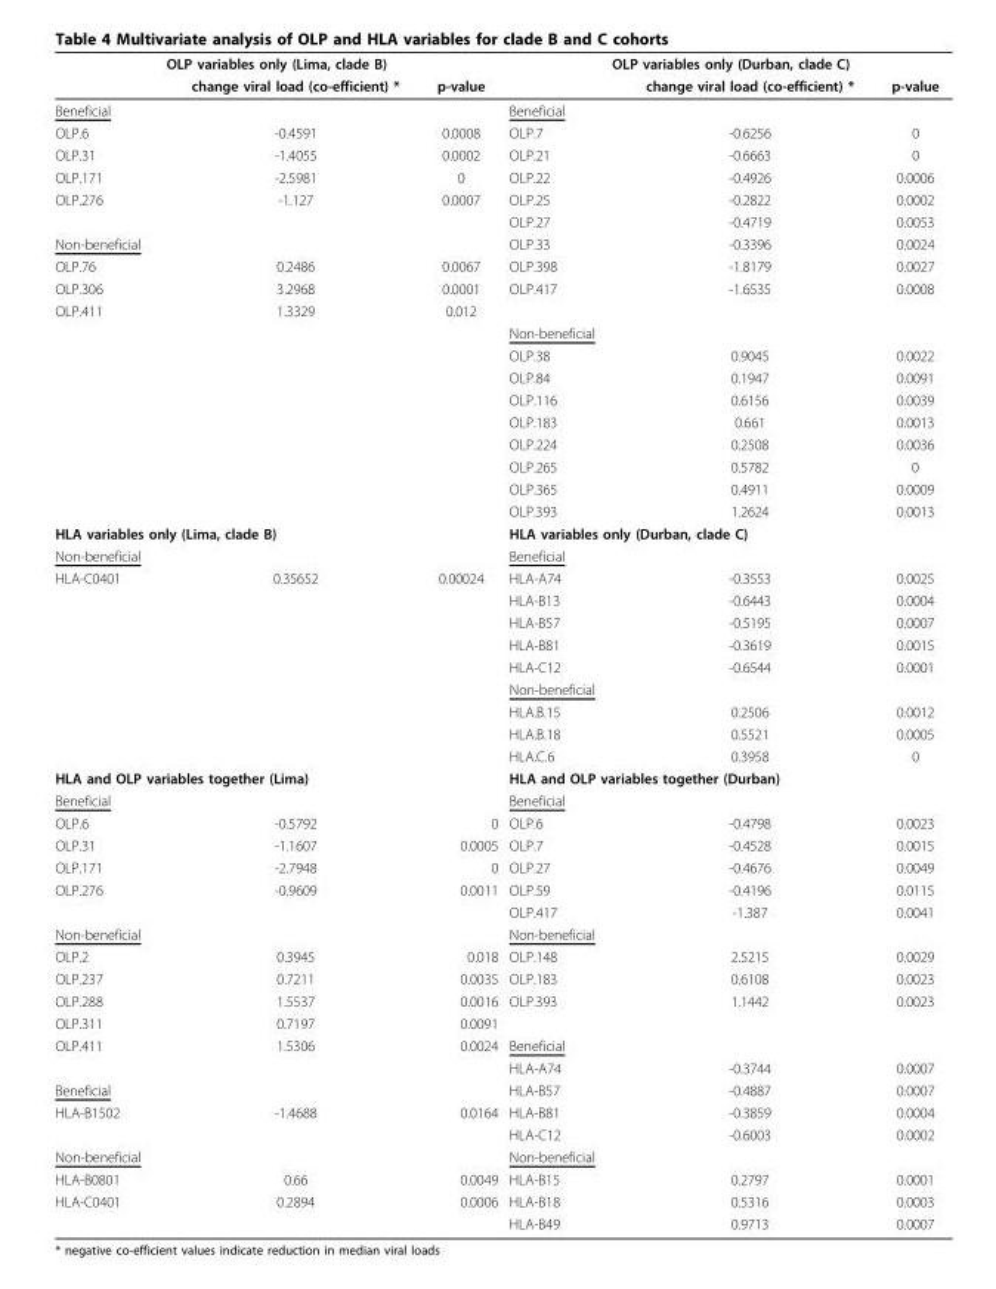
<table><thead><tr><td colspan="3">OLP variables only (Lima, clade B)</td><td colspan="3">OLP variables only (Durban, clade C)</td></tr><tr><td></td><td>change viral load (co-efficient) *</td><td>p-value</td><td></td><td>change viral load (co-efficient) *</td><td>p-value</td></tr></thead><tbody><tr><td>Beneficial</td><td></td><td></td><td>Beneficial</td><td></td><td></td></tr><tr><td>OLP.6</td><td>-0.4591</td><td>0.0008</td><td>OLP.7</td><td>-0.6256</td><td>0</td></tr><tr><td>OLP.31</td><td>-1.4055</td><td>0.0002</td><td>OLP.21</td><td>-0.6663</td><td>0</td></tr><tr><td>OLP.171</td><td>-2.5981</td><td>0</td><td>OLP.22</td><td>-0.4926</td><td>0.0006</td></tr><tr><td rowspan="2">OLP.276</td><td>-1.127</td><td>0.0007</td><td>OLP.25</td><td>-0.2822</td><td>0.0002</td></tr><tr><td></td><td></td><td>OLP.27</td><td>-0.4719</td><td>0.0053</td></tr><tr><td>Non-beneficial</td><td></td><td></td><td>OLP.33</td><td>-0.3396</td><td>0.0024</td></tr><tr><td>OLP.76</td><td>0.2486</td><td>0.0067</td><td>OLP.398</td><td>-1.8179</td><td>0.0027</td></tr><tr><td>OLP.306</td><td>3.2968</td><td>0.0001</td><td>OLP.417</td><td>-1.6535</td><td>0.0008</td></tr><tr><td rowspan="10">OLP.411</td><td>1.3329</td><td>0.012</td><td></td><td></td><td></td></tr><tr><td></td><td></td><td>Non-beneficial</td><td></td><td></td></tr><tr><td></td><td></td><td>OLP.38</td><td>0.9045</td><td>0.0022</td></tr><tr><td></td><td></td><td>OLP.84</td><td>0.1947</td><td>0.0091</td></tr><tr><td></td><td></td><td>OLP.116</td><td>0.6156</td><td>0.0039</td></tr><tr><td></td><td></td><td>OLP.183</td><td>0.661</td><td>0.0013</td></tr><tr><td></td><td></td><td>OLP.224</td><td>0.2508</td><td>0.0036</td></tr><tr><td></td><td></td><td>OLP.265</td><td>0.5782</td><td>0</td></tr><tr><td></td><td></td><td>OLP.365</td><td>0.4911</td><td>0.0009</td></tr><tr><td></td><td></td><td>OLP.393</td><td>1.2624</td><td>0.0013</td></tr><tr><td colspan="3">HLA variables only (Lima, clade B)</td><td colspan="3">HLA variables only (Durban, clade C)</td></tr><tr><td colspan="2">Non-beneficial</td><td></td><td>Beneficial</td><td></td><td></td></tr><tr><td rowspan="9">HLA-C0401</td><td>0.35652</td><td>0.00024</td><td>HLA-A74</td><td>-0.3553</td><td>0.0025</td></tr><tr><td></td><td></td><td>HLA-B13</td><td>-0.6443</td><td>0.0004</td></tr><tr><td></td><td></td><td>HLA-B57</td><td>-0.5195</td><td>0.0007</td></tr><tr><td></td><td></td><td>HLA-B81</td><td>-0.3619</td><td>0.0015</td></tr><tr><td></td><td></td><td>HLA-C12</td><td>-0.6544</td><td>0.0001</td></tr><tr><td></td><td></td><td colspan="2">Non-beneficial</td><td></td></tr><tr><td></td><td></td><td>HLA.B.15</td><td>0.2506</td><td>0.0012</td></tr><tr><td></td><td></td><td>HLA.B.18</td><td>0.5521</td><td>0.0005</td></tr><tr><td></td><td></td><td>HLA.C.6</td><td>0.3958</td><td>0</td></tr><tr><td colspan="3">HLA and OLP variables together (Lima)</td><td colspan="3">HLA and OLP variables together (Durban)</td></tr><tr><td>Beneficial</td><td></td><td></td><td>Beneficial</td><td></td><td></td></tr><tr><td>OLP.6</td><td>-0.5792</td><td>0</td><td>OLP.6</td><td>-0.4798</td><td>0.0023</td></tr><tr><td>OLP.31</td><td>-1.1607</td><td>0.0005</td><td>OLP.7</td><td>-0.4528</td><td>0.0015</td></tr><tr><td>OLP.171</td><td>-2.7948</td><td>0</td><td>OLP.27</td><td>-0.4676</td><td>0.0049</td></tr><tr><td rowspan="2">OLP.276</td><td>-0.9609</td><td>0.0011</td><td>OLP.59</td><td>-0.4196</td><td>0.0115</td></tr><tr><td></td><td></td><td>OLP.417</td><td>-1.387</td><td>0.0041</td></tr><tr><td colspan="2">Non-beneficial</td><td></td><td colspan="2">Non-beneficial</td><td></td></tr><tr><td>OLP.2</td><td>0.3945</td><td>0.018</td><td>OLP.148</td><td>2.5215</td><td>0.0029</td></tr><tr><td>OLP.237</td><td>0.7211</td><td>0.0035</td><td>OLP.183</td><td>0.6108</td><td>0.0023</td></tr><tr><td>OLP.288</td><td>1.5537</td><td>0.0016</td><td>OLP.393</td><td>1.1442</td><td>0.0023</td></tr><tr><td>OLP.311</td><td>0.7197</td><td>0.0091</td><td></td><td></td><td></td></tr><tr><td rowspan="2">OLP.411</td><td>1.5306</td><td>0.0024</td><td>Beneficial</td><td></td><td></td></tr><tr><td></td><td></td><td>HLA-A74</td><td>-0.3744</td><td>0.0007</td></tr><tr><td>Beneficial</td><td></td><td></td><td>HLA-B57</td><td>-0.4887</td><td>0.0007</td></tr><tr><td rowspan="2">HLA-B1502</td><td>-1.4688</td><td>0.0164</td><td>HLA-B81</td><td>-0.3859</td><td>0.0004</td></tr><tr><td></td><td></td><td>HLA-C12</td><td>-0.6003</td><td>0.0002</td></tr><tr><td>Non-beneficial</td><td></td><td></td><td>Non-beneficial</td><td></td><td></td></tr><tr><td>HLA-B0801</td><td>0.66</td><td>0.0049</td><td>HLA-B15</td><td>0.2797</td><td>0.0001</td></tr><tr><td rowspan="2">HLA-C0401</td><td>0.2894</td><td>0.0006</td><td>HLA-B18</td><td>0.5316</td><td>0.0003</td></tr><tr><td></td><td></td><td>HLA-B49</td><td>0.9713</td><td>0.0007</td></tr></tbody></table>